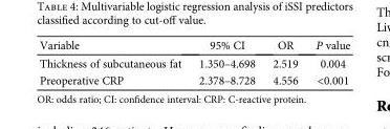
<table><thead><tr><td>Variable</td><td>95% CI</td><td>OR</td><td>P value</td></tr></thead><tbody><tr><td>Thickness of subcutaneous fat</td><td>1.350–4.698</td><td>2.519</td><td>0.004</td></tr><tr><td>Preoperative CRP</td><td>2.378–8.728</td><td>4.556</td><td>&lt;0.001</td></tr></tbody></table>